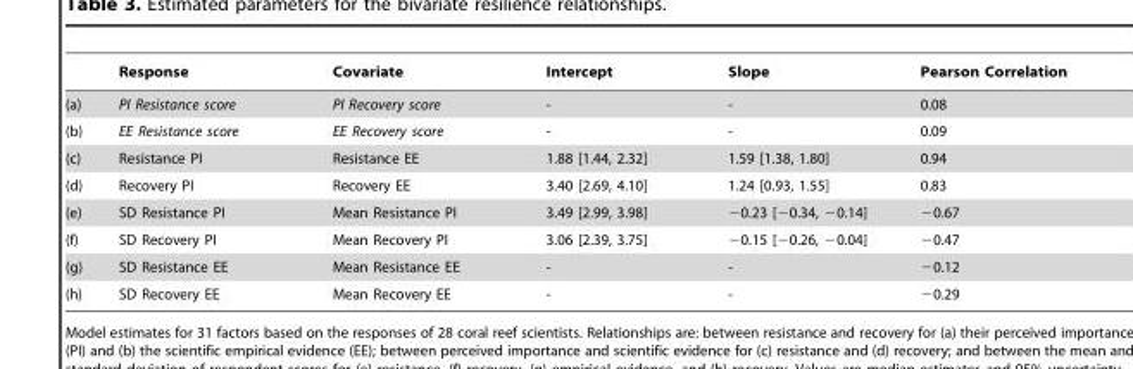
<table><thead><tr><td></td><td>Response</td><td>Covariate</td><td>Intercept</td><td>Slope</td><td>Pearson Correlation</td></tr></thead><tbody><tr><td>(a)</td><td>PI Resistance score</td><td>PI Recovery score</td><td>-</td><td>-</td><td>0.08</td></tr><tr><td>(b)</td><td>EE Resistance score</td><td>EE Recovery score</td><td>-</td><td>-</td><td>0.09</td></tr><tr><td>(c)</td><td>Resistance PI</td><td>Resistance EE</td><td>1.88 [1.44, 2.32]</td><td>1.59 [1.38, 1.80]</td><td>0.94</td></tr><tr><td>(d)</td><td>Recovery PI</td><td>Recovery EE</td><td>3.40 [2.69, 4.10]</td><td>1.24 [0.93, 1.55]</td><td>0.83</td></tr><tr><td>(e)</td><td>SD Resistance PI</td><td>Mean Resistance PI</td><td>3.49 [2.99, 3.98]</td><td>−0.23 [−0.34, −0.14]</td><td>−0.67</td></tr><tr><td>(f)</td><td>SD Recovery PI</td><td>Mean Recovery PI</td><td>3.06 [2.39, 3.75]</td><td>−0.15 [−0.26, −0.04]</td><td>−0.47</td></tr><tr><td>(g)</td><td>SD Resistance EE</td><td>Mean Resistance EE</td><td>-</td><td>-</td><td>−0.12</td></tr><tr><td>(h)</td><td>SD Recovery EE</td><td>Mean Recovery EE</td><td>-</td><td>-</td><td>−0.29</td></tr></tbody></table>